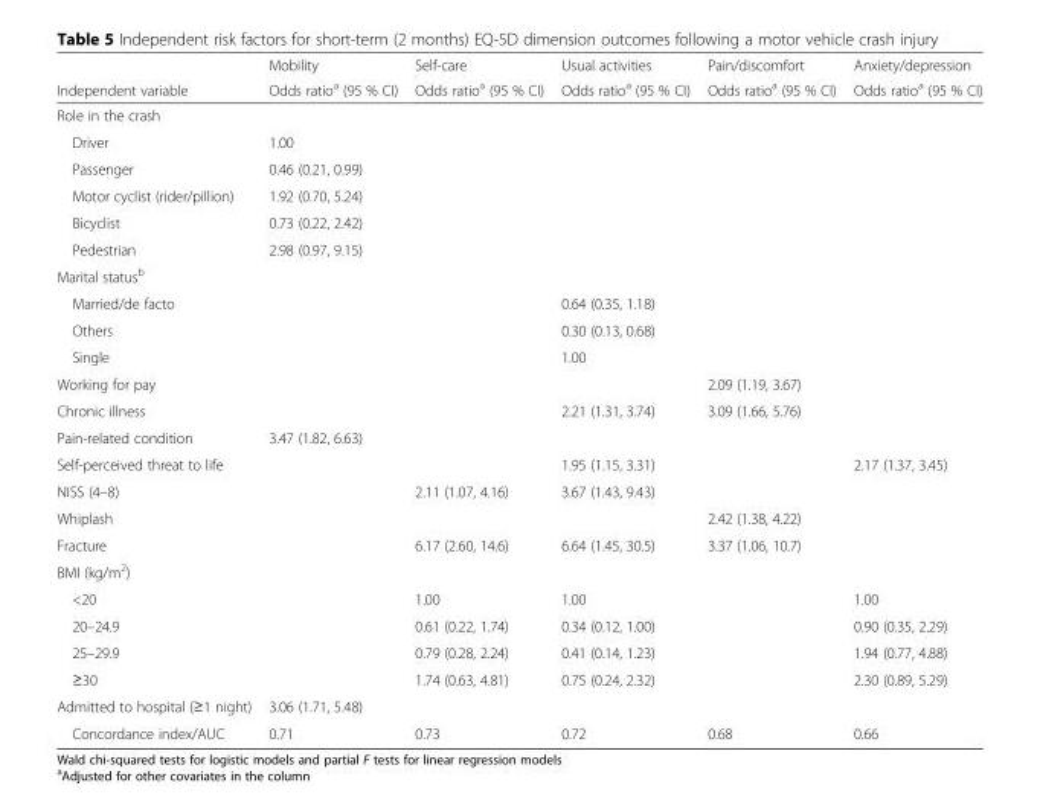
<table><thead><tr><td rowspan="2">Independent variable</td><td rowspan="2">Mobility Odds ratio<sup>a</sup> (95 % CI)</td><td rowspan="2">Self-care Odds ratio<sup>a</sup> (95 % CI)</td><td rowspan="2">Usual activities Odds ratio<sup>a</sup> (95 % CI)</td><td rowspan="2">Pain/discomfort Odds ratio<sup>a</sup> (95 % CI)</td><td rowspan="2">Anxiety/depression Odds ratio<sup>a</sup> (95 % CI)</td></tr><tr></tr></thead><tbody><tr><td colspan="6">Role in the crash</td></tr><tr><td>Driver</td><td>1.00</td><td></td><td></td><td></td><td></td></tr><tr><td>Passenger</td><td>0.46 (0.21, 0.99)</td><td></td><td></td><td></td><td></td></tr><tr><td>Motor cyclist (rider/pillion)</td><td>1.92 (0.70, 5.24)</td><td></td><td></td><td></td><td></td></tr><tr><td>Bicyclist</td><td>0.73 (0.22, 2.42)</td><td></td><td></td><td></td><td></td></tr><tr><td>Pedestrian</td><td>2.98 (0.97, 9.15)</td><td></td><td></td><td></td><td></td></tr><tr><td colspan="6">Marital status<sup>b</sup></td></tr><tr><td>Married/de facto</td><td></td><td></td><td>0.64 (0.35, 1.18)</td><td></td><td></td></tr><tr><td>Others</td><td></td><td></td><td>0.30 (0.13, 0.68)</td><td></td><td></td></tr><tr><td>Single</td><td></td><td></td><td>1.00</td><td></td><td></td></tr><tr><td>Working for pay</td><td></td><td></td><td></td><td>2.09 (1.19, 3.67)</td><td></td></tr><tr><td>Chronic illness</td><td></td><td></td><td>2.21 (1.31, 3.74)</td><td>3.09 (1.66, 5.76)</td><td></td></tr><tr><td>Pain-related condition</td><td>3.47 (1.82, 6.63)</td><td></td><td></td><td></td><td></td></tr><tr><td>Self-perceived threat to life</td><td></td><td></td><td>1.95 (1.15, 3.31)</td><td></td><td>2.17 (1.37, 3.45)</td></tr><tr><td>NISS (4–8)</td><td></td><td>2.11 (1.07, 4.16)</td><td>3.67 (1.43, 9.43)</td><td></td><td></td></tr><tr><td>Whiplash</td><td></td><td></td><td></td><td>2.42 (1.38, 4.22)</td><td></td></tr><tr><td>Fracture</td><td></td><td>6.17 (2.60, 14.6)</td><td>6.64 (1.45, 30.5)</td><td>3.37 (1.06, 10.7)</td><td></td></tr><tr><td colspan="6">BMI (kg/m<sup>2</sup>)</td></tr><tr><td>&lt;20</td><td></td><td>1.00</td><td>1.00</td><td></td><td>1.00</td></tr><tr><td>20–24.9</td><td></td><td>0.61 (0.22, 1.74)</td><td>0.34 (0.12, 1.00)</td><td></td><td>0.90 (0.35, 2.29)</td></tr><tr><td>25–29.9</td><td></td><td>0.79 (0.28, 2.24)</td><td>0.41 (0.14, 1.23)</td><td></td><td>1.94 (0.77, 4.88)</td></tr><tr><td>≥30</td><td></td><td>1.74 (0.63, 4.81)</td><td>0.75 (0.24, 2.32)</td><td></td><td>2.30 (0.89, 5.29)</td></tr><tr><td>Admitted to hospital (≥1 night)</td><td>3.06 (1.71, 5.48)</td><td></td><td></td><td></td><td></td></tr><tr><td>Concordance index/AUC</td><td>0.71</td><td>0.73</td><td>0.72</td><td>0.68</td><td>0.66</td></tr></tbody></table>